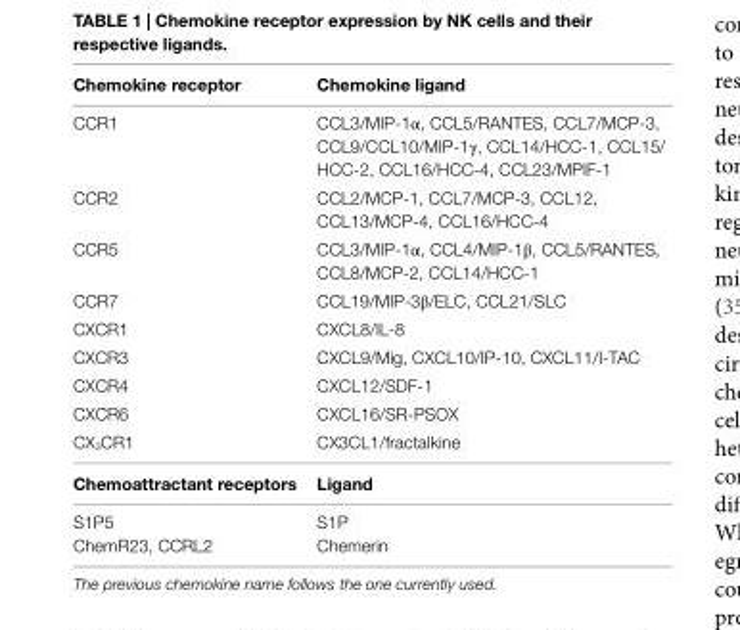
<table><thead><tr><td>Chemokine receptor</td><td>Chemokine ligand</td></tr></thead><tbody><tr><td>CCR1</td><td>CCL3/MIP-1α, CCL5/RANTES, CCL7/MCP-3, CCL9/CCL10/MIP-1γ, CCL14/HCC-1, CCL15/ HCC-2, CCL16/HCC-4, CCL23/MPIF-1</td></tr><tr><td>CCR2</td><td>CCL2/MCP-1, CCL7/MCP-3, CCL12, CCL13/MCP-4, CCL16/HCC-4</td></tr><tr><td>CCR5</td><td>CCL3/MIP-1α, CCL4/MIP-1β, CCL5/RANTES, CCL8/MCP-2, CCL14/HCC-1</td></tr><tr><td>CCR7</td><td>CCL19/MIP-3β/ELC, CCL21/SLC</td></tr><tr><td>CXCR1</td><td>CXCL8/IL-8</td></tr><tr><td>CXCR3</td><td>CXCL9/Mig, CXCL10/IP-10, CXCL11/I-TAC</td></tr><tr><td>CXCR4</td><td>CXCL12/SDF-1</td></tr><tr><td>CXCR6</td><td>CXCL16/SR-PSOX</td></tr><tr><td>CX<sub>3</sub>CR1</td><td>CX3CL1/fractalkine</td></tr><tr><td>Chemoattractant receptors</td><td>Ligand</td></tr><tr><td>S1P5</td><td>S1P</td></tr><tr><td>ChemR23, CCRL2</td><td>Chemerin</td></tr></tbody></table>